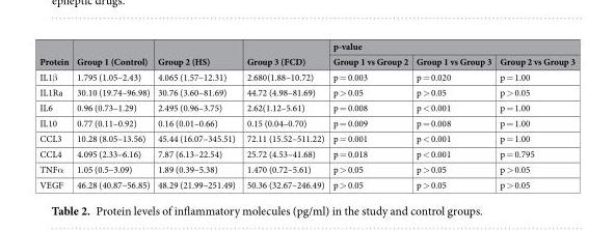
<table><thead><tr><td rowspan="2">Protein</td><td rowspan="2">Group 1 (Control)</td><td rowspan="2">Group 2 (HS)</td><td rowspan="2">Group 3 (FCD)</td><td colspan="3">p-value</td></tr><tr><td>Group 1 vs Group 2</td><td>Group 1 vs Group 3</td><td>Group 2 vs Group 3</td></tr></thead><tbody><tr><td>IL1β</td><td>1.795 (1.05–2.43)</td><td>4.065 (1.57–12.31)</td><td>2.680(1.88–10.72)</td><td>p = 0.003</td><td>p = 0.020</td><td>p = 1.00</td></tr><tr><td>IL1Ra</td><td>30.10 (19.74–96.98)</td><td>30.76 (3.60–81.69)</td><td>44.72 (4.98–81.69)</td><td>p &gt; 0.05</td><td>p &gt; 0.05</td><td>p &gt; 0.05</td></tr><tr><td>IL6</td><td>0.96 (0.73–1.29)</td><td>2.495 (0.96–3.75)</td><td>2.62(1.12–5.61)</td><td>p = 0.008</td><td>p &lt; 0.001</td><td>p = 1.00</td></tr><tr><td>IL10</td><td>0.77 (0.11–0.92)</td><td>0.16 (0.01–0.66)</td><td>0.15 (0.04–0.70)</td><td>p = 0.009</td><td>p = 0.008</td><td>p = 1.00</td></tr><tr><td>CCL3</td><td>10.28 (8.05–13.56)</td><td>45.44 (16.07–345.51)</td><td>72.11 (15.52–511.22)</td><td>p = 0.001</td><td>p &lt; 0.001</td><td>p = 1.00</td></tr><tr><td>CCL4</td><td>4.095 (2.33–6.16)</td><td>7.87 (6.13–22.54)</td><td>25.72 (4.53–41.68)</td><td>p = 0.018</td><td>p &lt; 0.001</td><td>p = 0.795</td></tr><tr><td>TNFα</td><td>1.05 (0.5–3.09)</td><td>1.89 (0.39–5.38)</td><td>1.470 (0.72–5.61)</td><td>p &gt; 0.05</td><td>p &gt; 0.05</td><td>p &gt; 0.05</td></tr><tr><td>VEGF</td><td>46.28 (40.87–56.85)</td><td>48.29 (21.99–251.49)</td><td>50.36 (32.67–246.49)</td><td>p &gt; 0.05</td><td>p &gt; 0.05</td><td>p &gt; 0.05</td></tr></tbody></table>